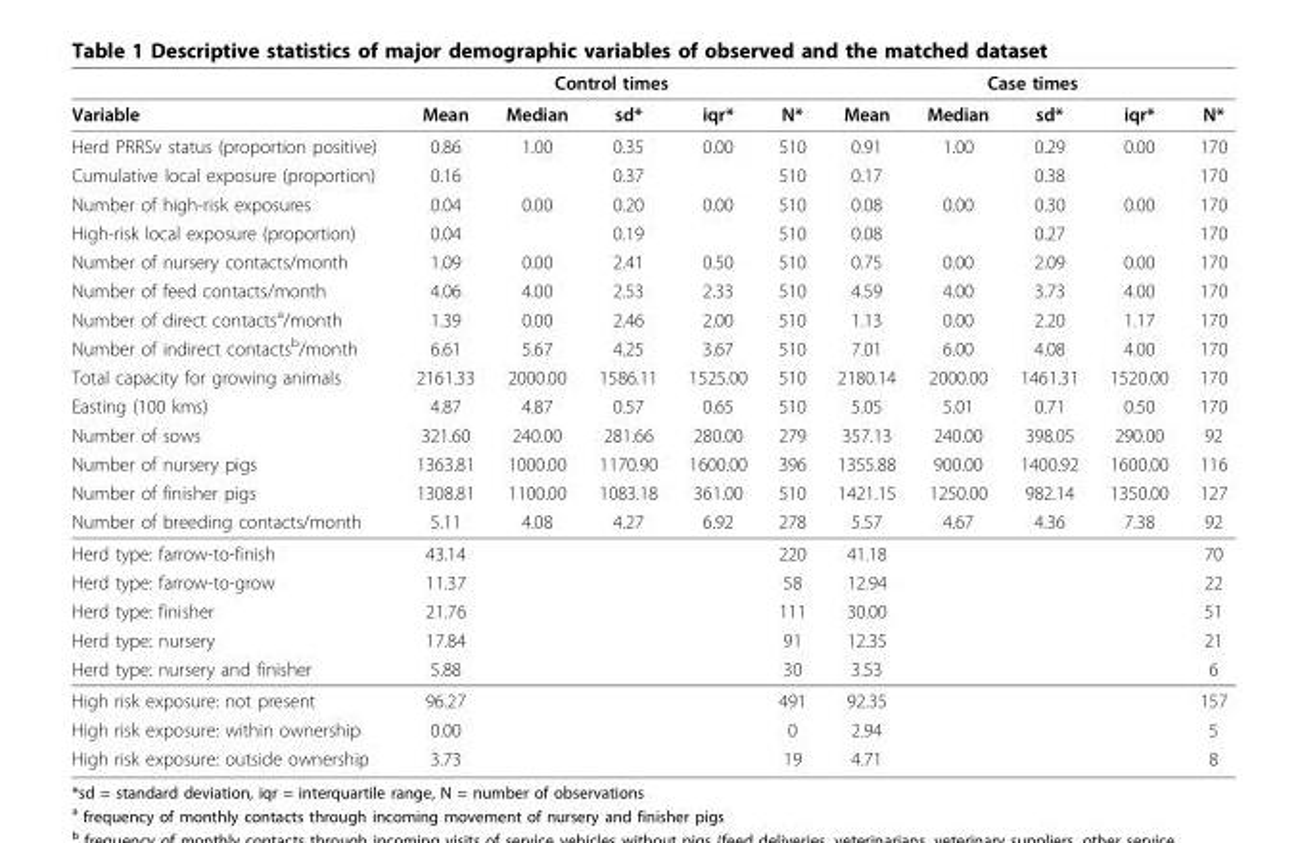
<table><thead><tr><td rowspan="2">Variable</td><td colspan="5">Control times</td><td colspan="5">Case times</td></tr><tr><td>Mean</td><td>Median</td><td>sd*</td><td>iqr*</td><td>N*</td><td>Mean</td><td>Median</td><td>sd*</td><td>iqr*</td><td>N*</td></tr></thead><tbody><tr><td>Herd PRRSv status (proportion positive)</td><td>0.86</td><td>1.00</td><td>0.35</td><td>0.00</td><td>510</td><td>0.91</td><td>1.00</td><td>0.29</td><td>0.00</td><td>170</td></tr><tr><td>Cumulative local exposure (proportion)</td><td>0.16</td><td></td><td>0.37</td><td></td><td>510</td><td>0.17</td><td></td><td>0.38</td><td></td><td>170</td></tr><tr><td>Number of high-risk exposures</td><td>0.04</td><td>0.00</td><td>0.20</td><td>0.00</td><td>510</td><td>0.08</td><td>0.00</td><td>0.30</td><td>0.00</td><td>170</td></tr><tr><td>High-risk local exposure (proportion)</td><td>0.04</td><td></td><td>0.19</td><td></td><td>510</td><td>0.08</td><td></td><td>0.27</td><td></td><td>170</td></tr><tr><td>Number of nursery contacts/month</td><td>1.09</td><td>0.00</td><td>2.41</td><td>0.50</td><td>510</td><td>0.75</td><td>0.00</td><td>2.09</td><td>0.00</td><td>170</td></tr><tr><td>Number of feed contacts/month</td><td>4.06</td><td>4.00</td><td>2.53</td><td>2.33</td><td>510</td><td>4.59</td><td>4.00</td><td>3.73</td><td>4.00</td><td>170</td></tr><tr><td>Number of direct contacts<sup>a</sup>/month</td><td>1.39</td><td>0.00</td><td>2.46</td><td>2.00</td><td>510</td><td>1.13</td><td>0.00</td><td>2.20</td><td>1.17</td><td>170</td></tr><tr><td>Number of indirect contacts<sup>b</sup>/month</td><td>6.61</td><td>5.67</td><td>4.25</td><td>3.67</td><td>510</td><td>7.01</td><td>6.00</td><td>4.08</td><td>4.00</td><td>170</td></tr><tr><td>Total capacity for growing animals</td><td>2161.33</td><td>2000.00</td><td>1586.11</td><td>1525.00</td><td>510</td><td>2180.14</td><td>2000.00</td><td>1461.31</td><td>1520.00</td><td>170</td></tr><tr><td>Easting (100 kms)</td><td>4.87</td><td>4.87</td><td>0.57</td><td>0.65</td><td>510</td><td>5.05</td><td>5.01</td><td>0.71</td><td>0.50</td><td>170</td></tr><tr><td>Number of sows</td><td>321.60</td><td>240.00</td><td>281.66</td><td>280.00</td><td>279</td><td>357.13</td><td>240.00</td><td>398.05</td><td>290.00</td><td>92</td></tr><tr><td>Number of nursery pigs</td><td>1363.81</td><td>1000.00</td><td>1170.90</td><td>1600.00</td><td>396</td><td>1355.88</td><td>900.00</td><td>1400.92</td><td>1600.00</td><td>116</td></tr><tr><td>Number of finisher pigs</td><td>1308.81</td><td>1100.00</td><td>1083.18</td><td>361.00</td><td>510</td><td>1421.15</td><td>1250.00</td><td>982.14</td><td>1350.00</td><td>127</td></tr><tr><td>Number of breeding contacts/month</td><td>5.11</td><td>4.08</td><td>4.27</td><td>6.92</td><td>278</td><td>5.57</td><td>4.67</td><td>4.36</td><td>7.38</td><td>92</td></tr><tr><td>Herd type: farrow-to-finish</td><td>43.14</td><td></td><td></td><td></td><td>220</td><td>41.18</td><td></td><td></td><td></td><td>70</td></tr><tr><td>Herd type: farrow-to-grow</td><td>11.37</td><td></td><td></td><td></td><td>58</td><td>12.94</td><td></td><td></td><td></td><td>22</td></tr><tr><td>Herd type: finisher</td><td>21.76</td><td></td><td></td><td></td><td>111</td><td>30.00</td><td></td><td></td><td></td><td>51</td></tr><tr><td>Herd type: nursery</td><td>17.84</td><td></td><td></td><td></td><td>91</td><td>12.35</td><td></td><td></td><td></td><td>21</td></tr><tr><td>Herd type: nursery and finisher</td><td>5.88</td><td></td><td></td><td></td><td>30</td><td>3.53</td><td></td><td></td><td></td><td>6</td></tr><tr><td>High risk exposure: not present</td><td>96.27</td><td></td><td></td><td></td><td>491</td><td>92.35</td><td></td><td></td><td></td><td>157</td></tr><tr><td>High risk exposure: within ownership</td><td>0.00</td><td></td><td></td><td></td><td>0</td><td>2.94</td><td></td><td></td><td></td><td>5</td></tr><tr><td>High risk exposure: outside ownership</td><td>3.73</td><td></td><td></td><td></td><td>19</td><td>4.71</td><td></td><td></td><td></td><td>8</td></tr></tbody></table>